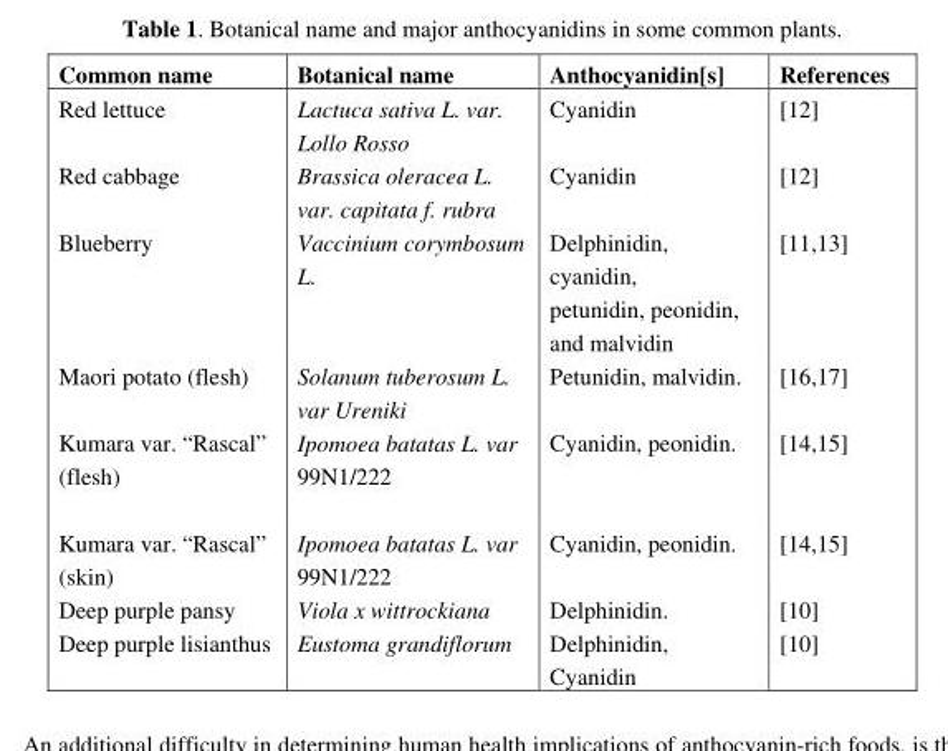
<table><thead><tr><td>Common name</td><td>Botanical name</td><td>Anthocyanidin[s]</td><td>References</td></tr></thead><tbody><tr><td>Red lettuce</td><td>Lactuca sativa L. var. Lollo Rosso</td><td>Cyanidin</td><td>[12]</td></tr><tr><td>Red cabbage</td><td>Brassica oleracea L. var. capitata f. rubra</td><td>Cyanidin</td><td>[12]</td></tr><tr><td>Blueberry</td><td>Vaccinium corymbosum L.</td><td>Delphinidin, cyanidin, petunidin, peonidin, and malvidin</td><td>[11,13]</td></tr><tr><td>Maori potato (flesh)</td><td>Solanum tuberosum L. var Ureniki</td><td>Petunidin, malvidin.</td><td>[16,17]</td></tr><tr><td>Kumara var. “Rascal” (flesh)</td><td>Ipomoea batatas L. var 99N1/222</td><td>Cyanidin, peonidin.</td><td>[14,15]</td></tr><tr><td>Kumara var. “Rascal” (skin)</td><td>Ipomoea batatas L. var 99N1/222</td><td>Cyanidin, peonidin.</td><td>[14,15]</td></tr><tr><td>Deep purple pansy</td><td>Viola x wittrockiana</td><td>Delphinidin.</td><td>[10]</td></tr><tr><td>Deep purple lisianthus</td><td>Eustoma grandiflorum</td><td>Delphinidin, Cyanidin</td><td>[10]</td></tr></tbody></table>